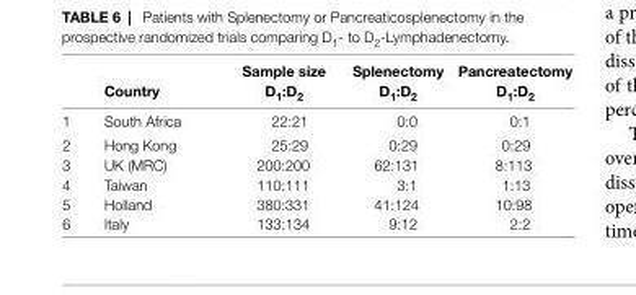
<table><thead><tr><td></td><td>Country</td><td>Sample size D<sub>1</sub>:D<sub>2</sub></td><td>Splenectomy D<sub>1</sub>:D<sub>2</sub></td><td>Pancreatectomy D<sub>1</sub>:D<sub>2</sub></td></tr></thead><tbody><tr><td>1</td><td>South Africa</td><td>22:21</td><td>0:0</td><td>0:1</td></tr><tr><td>2</td><td>Hong Kong</td><td>25:29</td><td>0:29</td><td>0:29</td></tr><tr><td>3</td><td>UK (MRC)</td><td>200:200</td><td>62:131</td><td>8:113</td></tr><tr><td>4</td><td>Taiwan</td><td>110:111</td><td>3:1</td><td>1:13</td></tr><tr><td>5</td><td>Holland</td><td>380:331</td><td>41:124</td><td>10:98</td></tr><tr><td>6</td><td>Italy</td><td>133:134</td><td>9:12</td><td>2:2</td></tr></tbody></table>